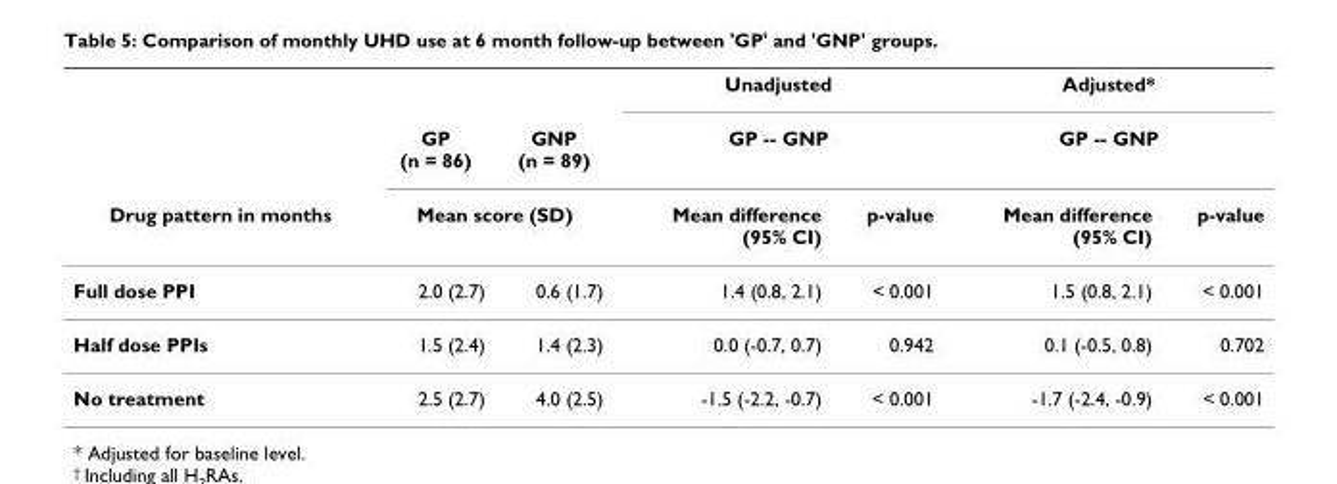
<table><thead><tr><td rowspan="3">Drug pattern in months</td><td rowspan="2">GP (n = 86)</td><td rowspan="2">GNP (n = 89)</td><td rowspan="2" colspan="2">Unadjusted GP -- GNP</td><td rowspan="2" colspan="2">Adjusted* GP -- GNP</td></tr><tr></tr><tr><td colspan="2">Mean score (SD)</td><td>Mean difference (95% CI)</td><td>p-value</td><td>Mean difference (95% CI)</td><td>p-value</td></tr></thead><tbody><tr><td>Full dose PPI</td><td>2.0 (2.7)</td><td>0.6 (1.7)</td><td>1.4 (0.8, 2.1)</td><td>&lt; 0.001</td><td>1.5 (0.8, 2.1)</td><td>&lt; 0.001</td></tr><tr><td>Half dose PPIs</td><td>1.5 (2.4)</td><td>1.4 (2.3)</td><td>0.0 (-0.7, 0.7)</td><td>0.942</td><td>0.1 (-0.5, 0.8)</td><td>0.702</td></tr><tr><td>No treatment</td><td>2.5 (2.7)</td><td>4.0 (2.5)</td><td>-1.5 (-2.2, -0.7)</td><td>&lt; 0.001</td><td>-1.7 (-2.4, -0.9)</td><td>&lt; 0.001</td></tr></tbody></table>